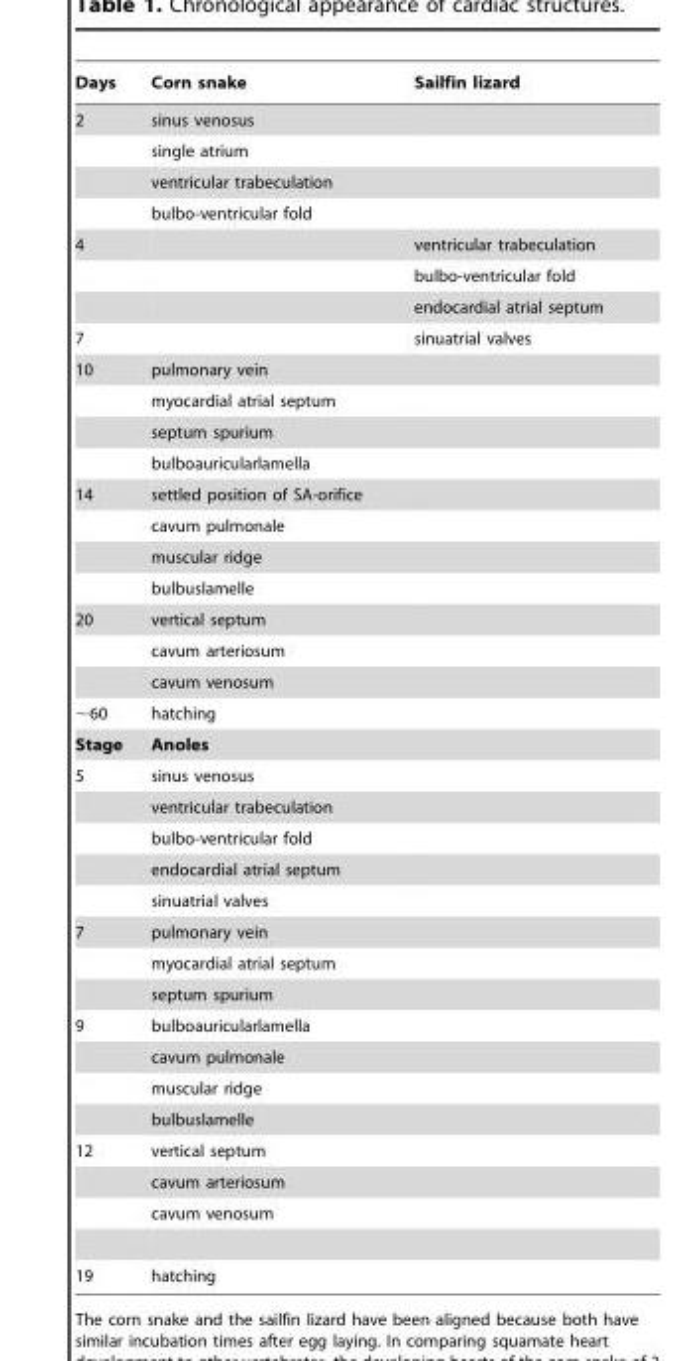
<table><thead><tr><td>Days</td><td>Corn snake</td><td>Sailfin lizard</td></tr></thead><tbody><tr><td rowspan="4">2</td><td>sinus venosus</td><td></td></tr><tr><td>single atrium</td><td></td></tr><tr><td>ventricular trabeculation</td><td></td></tr><tr><td>bulbo-ventricular fold</td><td></td></tr><tr><td rowspan="3">4</td><td></td><td>ventricular trabeculation</td></tr><tr><td></td><td>bulbo-ventricular fold</td></tr><tr><td></td><td>endocardial atrial septum</td></tr><tr><td>7</td><td></td><td>sinuatrial valves</td></tr><tr><td rowspan="4">10</td><td>pulmonary vein</td><td></td></tr><tr><td>myocardial atrial septum</td><td></td></tr><tr><td>septum spurium</td><td></td></tr><tr><td>bulboauricularlamella</td><td></td></tr><tr><td rowspan="4">14</td><td>settled position of SA-orifice</td><td></td></tr><tr><td>cavum pulmonale</td><td></td></tr><tr><td>muscular ridge</td><td></td></tr><tr><td>bulbuslamelle</td><td></td></tr><tr><td rowspan="3">20</td><td>vertical septum</td><td></td></tr><tr><td>cavum arteriosum</td><td></td></tr><tr><td>cavum venosum</td><td></td></tr><tr><td>∼60</td><td>hatching</td><td></td></tr><tr><td>Stage</td><td>Anoles</td><td></td></tr><tr><td rowspan="5">5</td><td>sinus venosus</td><td></td></tr><tr><td>ventricular trabeculation</td><td></td></tr><tr><td>bulbo-ventricular fold</td><td></td></tr><tr><td>endocardial atrial septum</td><td></td></tr><tr><td>sinuatrial valves</td><td></td></tr><tr><td rowspan="3">7</td><td>pulmonary vein</td><td></td></tr><tr><td>myocardial atrial septum</td><td></td></tr><tr><td>septum spurium</td><td></td></tr><tr><td rowspan="4">9</td><td>bulboauricularlamella</td><td></td></tr><tr><td>cavum pulmonale</td><td></td></tr><tr><td>muscular ridge</td><td></td></tr><tr><td>bulbuslamelle</td><td></td></tr><tr><td rowspan="3">12</td><td>vertical septum</td><td></td></tr><tr><td>cavum arteriosum</td><td></td></tr><tr><td>cavum venosum</td><td></td></tr><tr><td>19</td><td>hatching</td><td></td></tr></tbody></table>